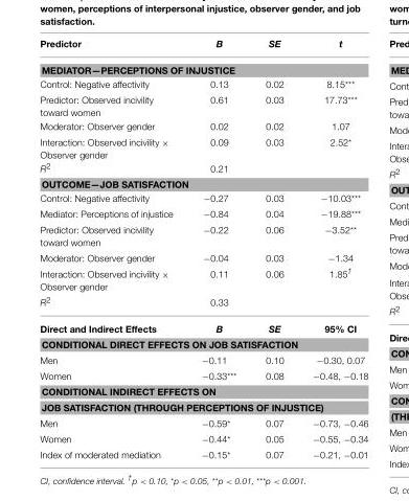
<table><thead><tr><td>Predictor</td><td>B</td><td>SE</td><td>t</td></tr></thead><tbody><tr><td colspan="4">MEDIATOR—PERCEPTIONS OF INJUSTICE</td></tr><tr><td>Control: Negative affectivity</td><td>0.13</td><td>0.02</td><td>8.15***</td></tr><tr><td>Predictor: Observed incivility toward women</td><td>0.61</td><td>0.03</td><td>17.73***</td></tr><tr><td>Moderator: Observer gender</td><td>0.02</td><td>0.02</td><td>1.07</td></tr><tr><td>Interaction: Observed incivility × Observer gender</td><td>0.09</td><td>0.03</td><td>2.52*</td></tr><tr><td>R<sup>2</sup></td><td>0.21</td><td></td><td></td></tr><tr><td colspan="4">OUTCOME—JOB SATISFACTION</td></tr><tr><td>Control: Negative affectivity</td><td>−0.27</td><td>0.03</td><td>−10.03***</td></tr><tr><td>Mediator: Perceptions of injustice</td><td>−0.84</td><td>0.04</td><td>−19.88***</td></tr><tr><td>Predictor: Observed incivility toward women</td><td>−0.22</td><td>0.06</td><td>−3.52**</td></tr><tr><td>Moderator: Observer gender</td><td>−0.04</td><td>0.03</td><td>−1.34</td></tr><tr><td>Interaction: Observed incivility × Observer gender</td><td>0.11</td><td>0.06</td><td>1.85<sup>†</sup></td></tr><tr><td>R<sup>2</sup></td><td>0.33</td><td></td><td></td></tr><tr><td>Direct and Indirect Effects</td><td>B</td><td>SE</td><td>95% CI</td></tr><tr><td colspan="4">CONDITIONAL DIRECT EFFECTS ON JOB SATISFACTION</td></tr><tr><td>Men</td><td>−0.11</td><td>0.10</td><td>−0.30, 0.07</td></tr><tr><td>Women</td><td>−0.33***</td><td>0.08</td><td>−0.48, −0.18</td></tr><tr><td colspan="4">CONDITIONAL INDIRECT EFFECTS ON</td></tr><tr><td colspan="4">JOB SATISFACTION (THROUGH PERCEPTIONS OF INJUSTICE)</td></tr><tr><td>Men</td><td>−0.59*</td><td>0.07</td><td>−0.73, −0.46</td></tr><tr><td>Women</td><td>−0.44*</td><td>0.05</td><td>−0.55, −0.34</td></tr><tr><td>Index of moderated mediation</td><td>−0.15*</td><td>0.07</td><td>−0.21, −0.01</td></tr></tbody></table>